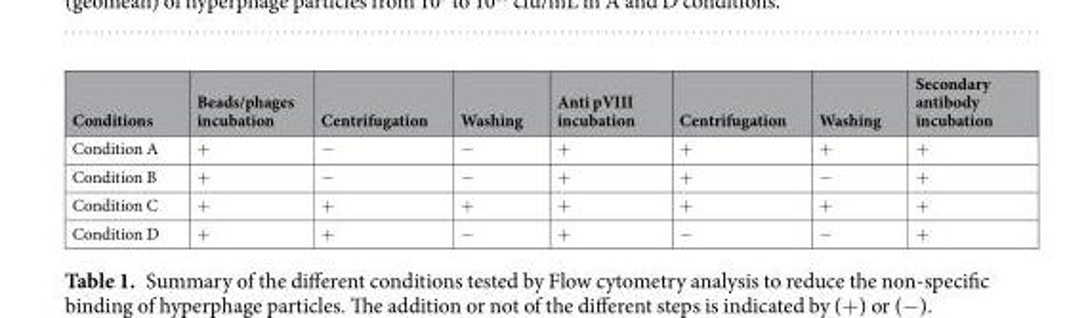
<table><thead><tr><td>Conditions</td><td>Beads/phages incubation</td><td>Centrifugation</td><td>Washing</td><td>Anti pVIII incubation</td><td>Centrifugation</td><td>Washing</td><td>Secondary antibody incubation</td></tr></thead><tbody><tr><td>Condition A</td><td>+</td><td>−</td><td>−</td><td>+</td><td>+</td><td>+</td><td>+</td></tr><tr><td>Condition B</td><td>+</td><td>−</td><td>−</td><td>+</td><td>+</td><td>−</td><td>+</td></tr><tr><td>Condition C</td><td>+</td><td>+</td><td>+</td><td>+</td><td>+</td><td>+</td><td>+</td></tr><tr><td>Condition D</td><td>+</td><td>+</td><td>−</td><td>+</td><td>−</td><td>−</td><td>+</td></tr></tbody></table>